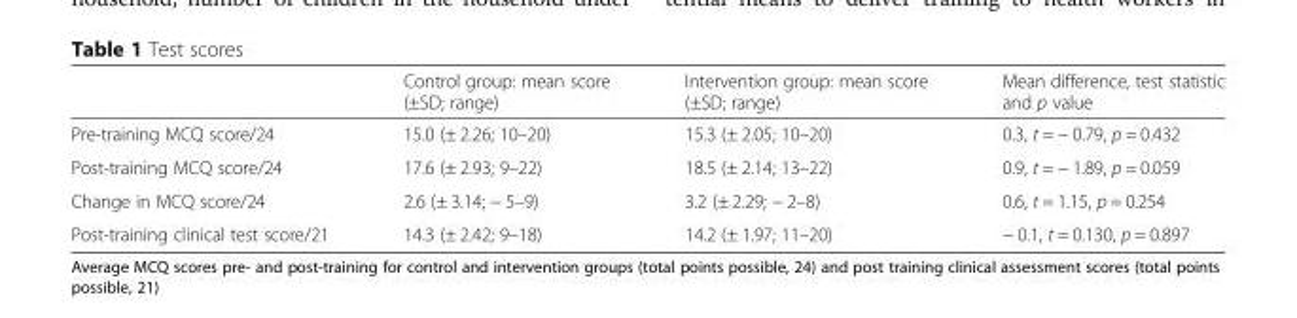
<table><thead><tr><td></td><td>Control group: mean score (±SD; range)</td><td>Intervention group: mean score (±SD; range)</td><td>Mean difference, test statistic and p value</td></tr></thead><tbody><tr><td>Pre-training MCQ score/24</td><td>15.0 (± 2.26; 10–20)</td><td>15.3 (± 2.05; 10–20)</td><td>0.3, t = − 0.79, p = 0.432</td></tr><tr><td>Post-training MCQ score/24</td><td>17.6 (± 2.93; 9–22)</td><td>18.5 (± 2.14; 13–22)</td><td>0.9, t = − 1.89, p = 0.059</td></tr><tr><td>Change in MCQ score/24</td><td>2.6 (± 3.14; − 5–9)</td><td>3.2 (± 2.29; − 2–8)</td><td>0.6, t = 1.15, p = 0.254</td></tr><tr><td>Post-training clinical test score/21</td><td>14.3 (± 2.42; 9–18)</td><td>14.2 (± 1.97; 11–20)</td><td>− 0.1, t = 0.130, p = 0.897</td></tr></tbody></table>